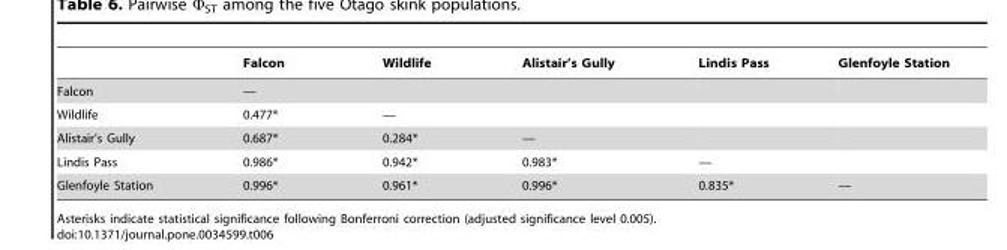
<table><thead><tr><td></td><td>Falcon</td><td>Wildlife</td><td>Alistair’s Gully</td><td>Lindis Pass</td><td>Glenfoyle Station</td></tr></thead><tbody><tr><td>Falcon</td><td>—</td><td></td><td></td><td></td><td></td></tr><tr><td>Wildlife</td><td>0.477*</td><td>—</td><td></td><td></td><td></td></tr><tr><td>Alistair’s Gully</td><td>0.687*</td><td>0.284*</td><td>—</td><td></td><td></td></tr><tr><td>Lindis Pass</td><td>0.986*</td><td>0.942*</td><td>0.983*</td><td>—</td><td></td></tr><tr><td>Glenfoyle Station</td><td>0.996*</td><td>0.961*</td><td>0.996*</td><td>0.835*</td><td>—</td></tr></tbody></table>